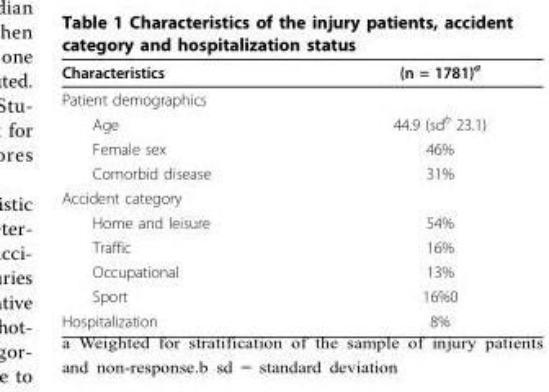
<table><thead><tr><td>Characteristics</td><td>(n = 1781)<sup>a</sup></td></tr></thead><tbody><tr><td colspan="2">Patient demographics</td></tr><tr><td>Age</td><td>44.9 (sd<sup>b</sup> 23.1)</td></tr><tr><td>Female sex</td><td>46%</td></tr><tr><td>Comorbid disease</td><td>31%</td></tr><tr><td colspan="2">Accident category</td></tr><tr><td>Home and leisure</td><td>54%</td></tr><tr><td>Traffic</td><td>16%</td></tr><tr><td>Occupational</td><td>13%</td></tr><tr><td>Sport</td><td>16%0</td></tr><tr><td>Hospitalization</td><td>8%</td></tr></tbody></table>